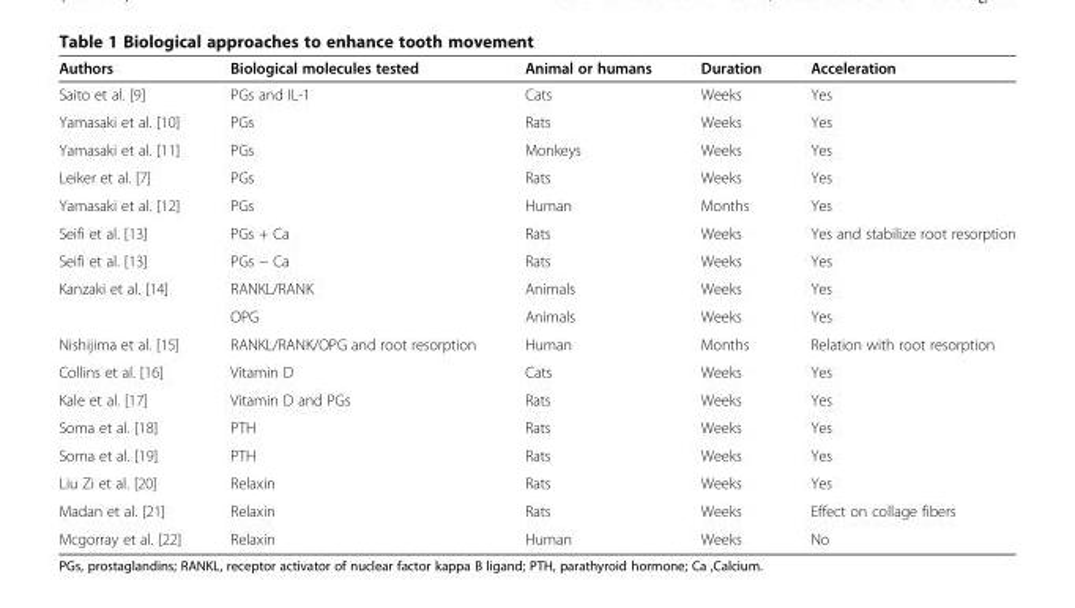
<table><thead><tr><td>Authors</td><td>Biological molecules tested</td><td>Animal or humans</td><td>Duration</td><td>Acceleration</td></tr></thead><tbody><tr><td>Saito et al. [9]</td><td>PGs and IL-1</td><td>Cats</td><td>Weeks</td><td>Yes</td></tr><tr><td>Yamasaki et al. [10]</td><td>PGs</td><td>Rats</td><td>Weeks</td><td>Yes</td></tr><tr><td>Yamasaki et al. [11]</td><td>PGs</td><td>Monkeys</td><td>Weeks</td><td>Yes</td></tr><tr><td>Leiker et al. [7]</td><td>PGs</td><td>Rats</td><td>Weeks</td><td>Yes</td></tr><tr><td>Yamasaki et al. [12]</td><td>PGs</td><td>Human</td><td>Months</td><td>Yes</td></tr><tr><td>Seifi et al. [13]</td><td>PGs + Ca</td><td>Rats</td><td>Weeks</td><td>Yes and stabilize root resorption</td></tr><tr><td>Seifi et al. [13]</td><td>PGs − Ca</td><td>Rats</td><td>Weeks</td><td>Yes</td></tr><tr><td rowspan="2">Kanzaki et al. [14]</td><td>RANKL/RANK</td><td>Animals</td><td>Weeks</td><td>Yes</td></tr><tr><td>OPG</td><td>Animals</td><td>Weeks</td><td>Yes</td></tr><tr><td>Nishijima et al. [15]</td><td>RANKL/RANK/OPG and root resorption</td><td>Human</td><td>Months</td><td>Relation with root resorption</td></tr><tr><td>Collins et al. [16]</td><td>Vitamin D</td><td>Cats</td><td>Weeks</td><td>Yes</td></tr><tr><td>Kale et al. [17]</td><td>Vitamin D and PGs</td><td>Rats</td><td>Weeks</td><td>Yes</td></tr><tr><td>Soma et al. [18]</td><td>PTH</td><td>Rats</td><td>Weeks</td><td>Yes</td></tr><tr><td>Soma et al. [19]</td><td>PTH</td><td>Rats</td><td>Weeks</td><td>Yes</td></tr><tr><td>Liu Zi et al. [20]</td><td>Relaxin</td><td>Rats</td><td>Weeks</td><td>Yes</td></tr><tr><td>Madan et al. [21]</td><td>Relaxin</td><td>Rats</td><td>Weeks</td><td>Effect on collage fibers</td></tr><tr><td>Mcgorray et al. [22]</td><td>Relaxin</td><td>Human</td><td>Weeks</td><td>No</td></tr></tbody></table>